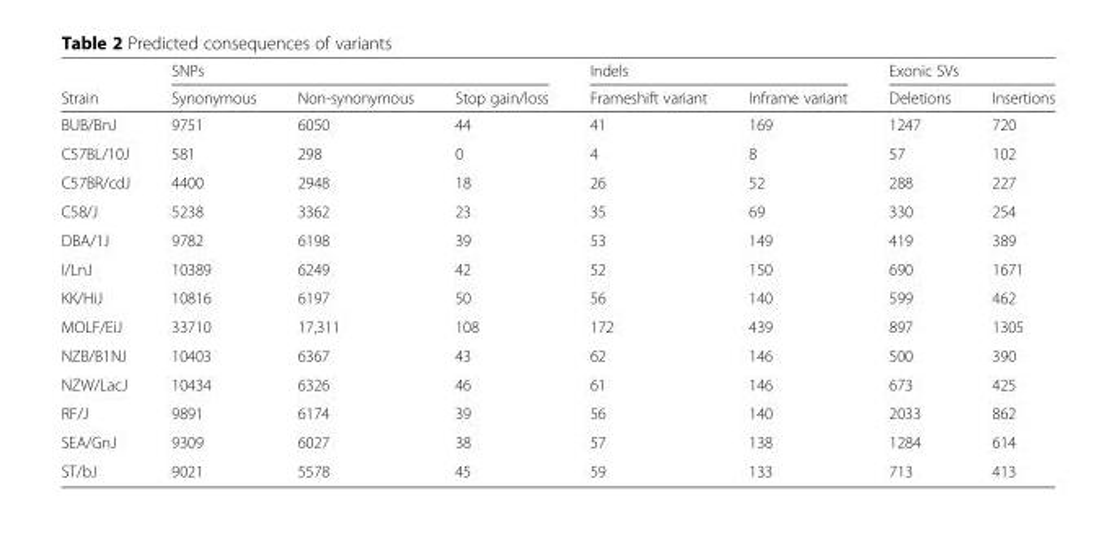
<table><thead><tr><td rowspan="2">Strain</td><td colspan="3">SNPs</td><td colspan="2">Indels</td><td colspan="2">Exonic SVs</td></tr><tr><td>Synonymous</td><td>Non-synonymous</td><td>Stop gain/loss</td><td>Frameshift variant</td><td>Inframe variant</td><td>Deletions</td><td>Insertions</td></tr></thead><tbody><tr><td>BUB/BnJ</td><td>9751</td><td>6050</td><td>44</td><td>41</td><td>169</td><td>1247</td><td>720</td></tr><tr><td>C57BL/10J</td><td>581</td><td>298</td><td>0</td><td>4</td><td>8</td><td>57</td><td>102</td></tr><tr><td>C57BR/cdJ</td><td>4400</td><td>2948</td><td>18</td><td>26</td><td>52</td><td>288</td><td>227</td></tr><tr><td>C58/J</td><td>5238</td><td>3362</td><td>23</td><td>35</td><td>69</td><td>330</td><td>254</td></tr><tr><td>DBA/1J</td><td>9782</td><td>6198</td><td>39</td><td>53</td><td>149</td><td>419</td><td>389</td></tr><tr><td>I/LnJ</td><td>10389</td><td>6249</td><td>42</td><td>52</td><td>150</td><td>690</td><td>1671</td></tr><tr><td>KK/HiJ</td><td>10816</td><td>6197</td><td>50</td><td>56</td><td>140</td><td>599</td><td>462</td></tr><tr><td>MOLF/EiJ</td><td>33710</td><td>17,311</td><td>108</td><td>172</td><td>439</td><td>897</td><td>1305</td></tr><tr><td>NZB/B1NJ</td><td>10403</td><td>6367</td><td>43</td><td>62</td><td>146</td><td>500</td><td>390</td></tr><tr><td>NZW/LacJ</td><td>10434</td><td>6326</td><td>46</td><td>61</td><td>146</td><td>673</td><td>425</td></tr><tr><td>RF/J</td><td>9891</td><td>6174</td><td>39</td><td>56</td><td>140</td><td>2033</td><td>862</td></tr><tr><td>SEA/GnJ</td><td>9309</td><td>6027</td><td>38</td><td>57</td><td>138</td><td>1284</td><td>614</td></tr><tr><td>ST/bJ</td><td>9021</td><td>5578</td><td>45</td><td>59</td><td>133</td><td>713</td><td>413</td></tr></tbody></table>